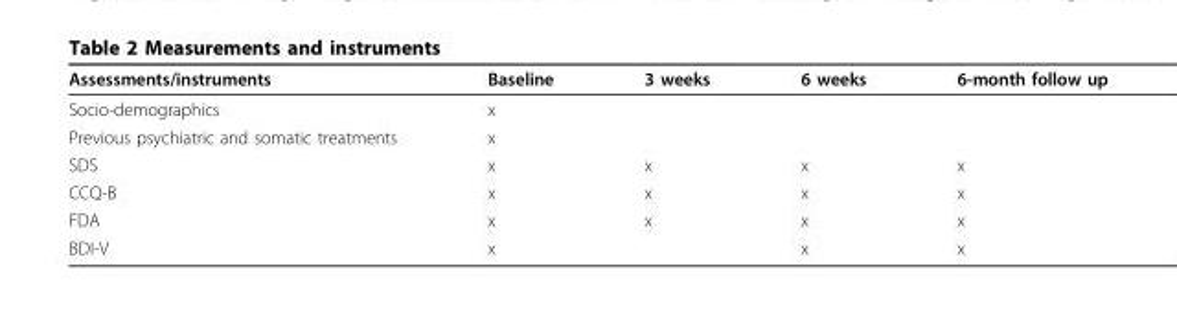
<table><thead><tr><td>Assessments/instruments</td><td>Baseline</td><td>3 weeks</td><td>6 weeks</td><td>6-month follow up</td></tr></thead><tbody><tr><td>Socio-demographics</td><td>x</td><td></td><td></td><td></td></tr><tr><td>Previous psychiatric and somatic treatments</td><td>x</td><td></td><td></td><td></td></tr><tr><td>SDS</td><td>x</td><td>x</td><td>x</td><td>x</td></tr><tr><td>CCQ-B</td><td>x</td><td>x</td><td>x</td><td>x</td></tr><tr><td>FDA</td><td>x</td><td>x</td><td>x</td><td>x</td></tr><tr><td>BDI-V</td><td>x</td><td></td><td>x</td><td>x</td></tr></tbody></table>